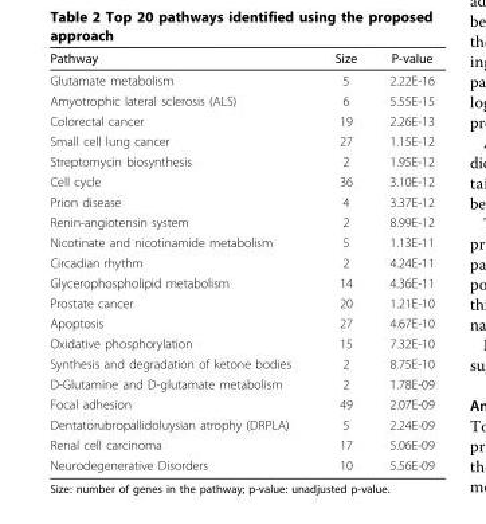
<table><thead><tr><td>Pathway</td><td>Size</td><td>P-value</td></tr></thead><tbody><tr><td>Glutamate metabolism</td><td>5</td><td>2.22E-16</td></tr><tr><td>Amyotrophic lateral sclerosis (ALS)</td><td>6</td><td>5.55E-15</td></tr><tr><td>Colorectal cancer</td><td>19</td><td>2.26E-13</td></tr><tr><td>Small cell lung cancer</td><td>27</td><td>1.15E-12</td></tr><tr><td>Streptomycin biosynthesis</td><td>2</td><td>1.95E-12</td></tr><tr><td>Cell cycle</td><td>36</td><td>3.10E-12</td></tr><tr><td>Prion disease</td><td>4</td><td>3.37E-12</td></tr><tr><td>Renin-angiotensin system</td><td>2</td><td>8.99E-12</td></tr><tr><td>Nicotinate and nicotinamide metabolism</td><td>5</td><td>1.13E-11</td></tr><tr><td>Circadian rhythm</td><td>2</td><td>4.24E-11</td></tr><tr><td>Glycerophospholipid metabolism</td><td>14</td><td>4.36E-11</td></tr><tr><td>Prostate cancer</td><td>20</td><td>1.21E-10</td></tr><tr><td>Apoptosis</td><td>27</td><td>4.67E-10</td></tr><tr><td>Oxidative phosphorylation</td><td>15</td><td>7.32E-10</td></tr><tr><td>Synthesis and degradation of ketone bodies</td><td>2</td><td>8.75E-10</td></tr><tr><td>D-Glutamine and D-glutamate metabolism</td><td>2</td><td>1.78E-09</td></tr><tr><td>Focal adhesion</td><td>49</td><td>2.07E-09</td></tr><tr><td>Dentatorubropallidoluysian atrophy (DRPLA)</td><td>5</td><td>2.24E-09</td></tr><tr><td>Renal cell carcinoma</td><td>17</td><td>5.06E-09</td></tr><tr><td>Neurodegenerative Disorders</td><td>10</td><td>5.56E-09</td></tr></tbody></table>